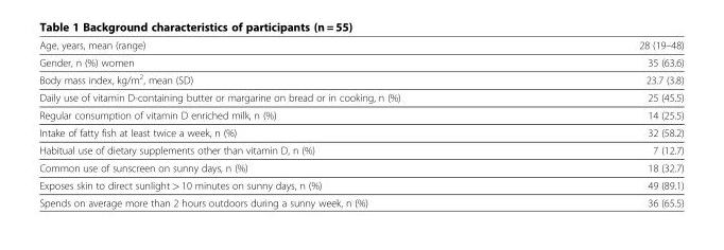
<table><tbody><tr><td>Age, years, mean (range)</td><td>28 (19–48)</td></tr><tr><td>Gender, n (%) women</td><td>35 (63.6)</td></tr><tr><td>Body mass index, kg/m<sup>2</sup>, mean (SD)</td><td>23.7 (3.8)</td></tr><tr><td>Daily use of vitamin D-containing butter or margarine on bread or in cooking, n (%)</td><td>25 (45.5)</td></tr><tr><td>Regular consumption of vitamin D enriched milk, n (%)</td><td>14 (25.5)</td></tr><tr><td>Intake of fatty fish at least twice a week, n (%)</td><td>32 (58.2)</td></tr><tr><td>Habitual use of dietary supplements other than vitamin D, n (%)</td><td>7 (12.7)</td></tr><tr><td>Common use of sunscreen on sunny days, n (%)</td><td>18 (32.7)</td></tr><tr><td>Exposes skin to direct sunlight &gt; 10 minutes on sunny days, n (%)</td><td>49 (89.1)</td></tr><tr><td>Spends on average more than 2 hours outdoors during a sunny week, n (%)</td><td>36 (65.5)</td></tr></tbody></table>